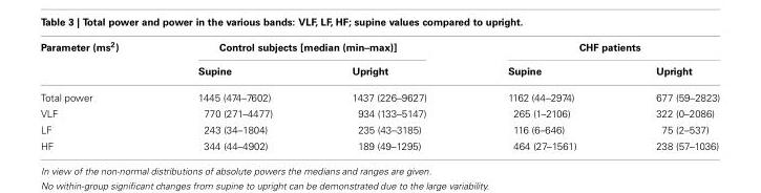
<table><thead><tr><td rowspan="2">Parameter (ms<sup>2</sup>)</td><td colspan="2">Control subjects [median (min–max)]</td><td colspan="2">CHF patients</td></tr><tr><td>Supine</td><td>Upright</td><td>Supine</td><td>Upright</td></tr></thead><tbody><tr><td>Total power</td><td>1445 (474–7602)</td><td>1437 (226–9627)</td><td>1162 (44–2974)</td><td>677 (59–2823)</td></tr><tr><td>VLF</td><td>770 (271–4477)</td><td>934 (133–5147)</td><td>265 (1–2106)</td><td>322 (0–2086)</td></tr><tr><td>LF</td><td>243 (34–1804)</td><td>235 (43–3185)</td><td>116 (6–646)</td><td>75 (2–537)</td></tr><tr><td>HF</td><td>344 (44–4902)</td><td>189 (49–1295)</td><td>464 (27–1561)</td><td>238 (57–1036)</td></tr></tbody></table>